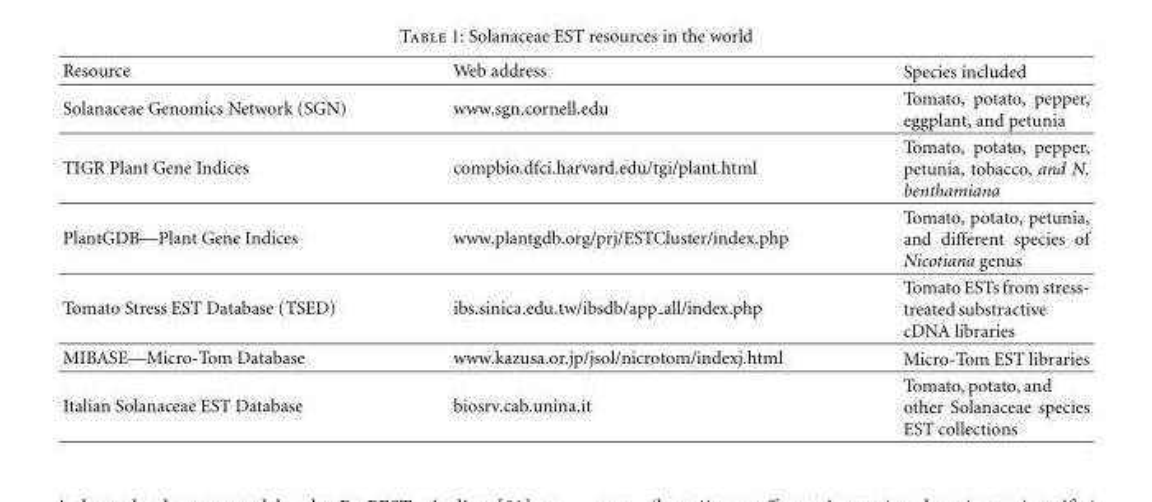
<table><tbody><tr><td>Resource</td><td>Web address</td><td>Species included</td></tr><tr><td>Solanaceae Genomics Network (SGN)</td><td>www.sgn.cornell.edu</td><td>Tomato, potato, pepper, eggplant, and petunia</td></tr><tr><td>TIGR Plant Gene Indices</td><td>compbio.dfci.harvard.edu/tgi/plant.html</td><td>Tomato, potato, pepper, petunia, tobacco, and N. benthamiana</td></tr><tr><td>PlantGDB—Plant Gene Indices</td><td>www.plantgdb.org/prj/ESTCluster/index.php</td><td>Tomato, potato, petunia, and different species of Nicotiana genus</td></tr><tr><td>Tomato Stress EST Database (TSED)</td><td>ibs.sinica.edu.tw/ibsdb/app all/index.php</td><td>Tomato ESTs from stress- treated substractive cDNA libraries</td></tr><tr><td>MIBASE—Micro-Tom Database</td><td>www.kazusa.or.jp/jsol/nicrotom/indexj.html</td><td>Micro-Tom EST libraries</td></tr><tr><td>Italian Solanaceae EST Database</td><td>biosrv.cab.unina.it</td><td>Tomato, potato, and other Solanaceae species EST collections</td></tr></tbody></table>